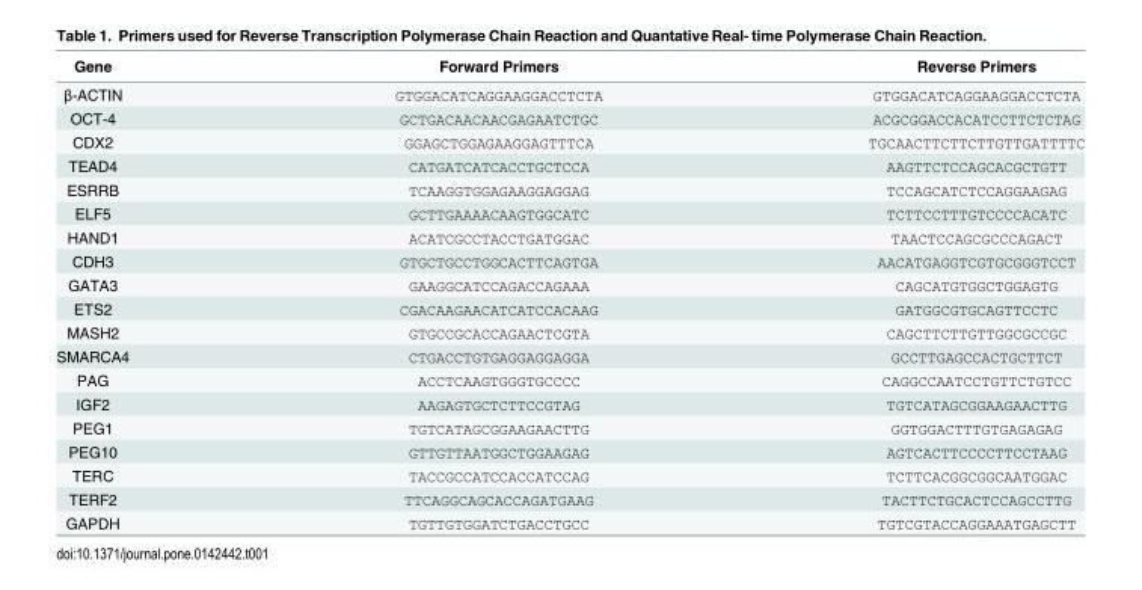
<table><thead><tr><td>Gene</td><td>Forward Primers</td><td>Reverse Primers</td></tr></thead><tbody><tr><td>β-ACTIN</td><td>GTGGACATCAGGAAGGACCTCTA</td><td>GTGGACATCAGGAAGGACCTCTA</td></tr><tr><td>OCT-4</td><td>GCTGACAACAACGAGAATCTGC</td><td>ACGCGGACCACATCCTTCTCTAG</td></tr><tr><td>CDX2</td><td>GGAGCTGGAGAAGGAGTTTCA</td><td>TGCAACTTCTTCTTGTTGATTTTC</td></tr><tr><td>TEAD4</td><td>CATGATCATCACCTGCTCCA</td><td>AAGTTCTCCAGCACGCTGTT</td></tr><tr><td>ESRRB</td><td>TCAAGGTGGAGAAGGAGGAG</td><td>TCCAGCATCTCCAGGAAGAG</td></tr><tr><td>ELF5</td><td>GCTTGAAAACAAGTGGCATC</td><td>TCTTCCTTTGTCCCCACATC</td></tr><tr><td>HAND1</td><td>ACATCGCCTACCTGATGGAC</td><td>TAACTCCAGCGCCCAGACT</td></tr><tr><td>CDH3</td><td>GTGCTGCCTGGCACTTCAGTGA</td><td>AACATGAGGTCGTGCGGGTCCT</td></tr><tr><td>GATA3</td><td>GAAGGCATCCAGACCAGAAA</td><td>CAGCATGTGGCTGGAGTG</td></tr><tr><td>ETS2</td><td>CGACAAGAACATCATCCACAAG</td><td>GATGGCGTGCAGTTCCTC</td></tr><tr><td>MASH2</td><td>GTGCCGCACCAGAACTCGTA</td><td>CAGCTTCTTGTTGGCGCCGC</td></tr><tr><td>SMARCA4</td><td>CTGACCTGTGAGGAGGAGGA</td><td>GCCTTGAGCCACTGCTTCT</td></tr><tr><td>PAG</td><td>ACCTCAAGTGGGTGCCCC</td><td>CAGGCCAATCCTGTTCTGTCC</td></tr><tr><td>IGF2</td><td>AAGAGTGCTCTTCCGTAG</td><td>TGTCATAGCGGAAGAACTTG</td></tr><tr><td>PEG1</td><td>TGTCATAGCGGAAGAACTTG</td><td>GGTGGACTTTGTGAGAGAG</td></tr><tr><td>PEG10</td><td>GTTGTTAATGGCTGGAAGAG</td><td>AGTCACTTCCCCTTCCTAAG</td></tr><tr><td>TERC</td><td>TACCGCCATCCACCATCCAG</td><td>TCTTCACGGCGGCAATGGAC</td></tr><tr><td>TERF2</td><td>TTCAGGCAGCACCAGATGAAG</td><td>TACTTCTGCACTCCAGCCTTG</td></tr><tr><td>GAPDH</td><td>TGTTGTGGATCTGACCTGCC</td><td>TGTCGTACCAGGAAATGAGCTT</td></tr></tbody></table>